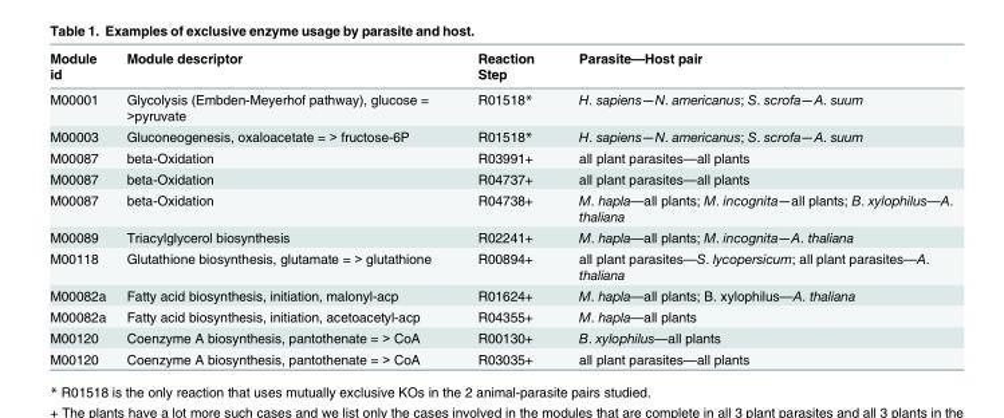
<table><thead><tr><td>Module id</td><td>Module descriptor</td><td>Reaction Step</td><td>Parasite—Host pair</td></tr></thead><tbody><tr><td>M00001</td><td>Glycolysis (Embden-Meyerhof pathway), glucose = &gt;pyruvate</td><td>R01518*</td><td>H. sapiens—N. americanus; S. scrofa—A. suum</td></tr><tr><td>M00003</td><td>Gluconeogenesis, oxaloacetate = &gt; fructose-6P</td><td>R01518*</td><td>H. sapiens—N. americanus; S. scrofa—A. suum</td></tr><tr><td>M00087</td><td>beta-Oxidation</td><td>R03991+</td><td>all plant parasites—all plants</td></tr><tr><td>M00087</td><td>beta-Oxidation</td><td>R04737+</td><td>all plant parasites—all plants</td></tr><tr><td>M00087</td><td>beta-Oxidation</td><td>R04738+</td><td>M. hapla—all plants; M. incognita—all plants; B. xylophilus—A. thaliana</td></tr><tr><td>M00089</td><td>Triacylglycerol biosynthesis</td><td>R02241+</td><td>M. hapla—all plants; M. incognita—A. thaliana</td></tr><tr><td>M00118</td><td>Glutathione biosynthesis, glutamate = &gt; glutathione</td><td>R00894+</td><td>all plant parasites—S. lycopersicum; all plant parasites—A. thaliana</td></tr><tr><td>M00082a</td><td>Fatty acid biosynthesis, initiation, malonyl-acp</td><td>R01624+</td><td>M. hapla—all plants; B. xylophilus—A. thaliana</td></tr><tr><td>M00082a</td><td>Fatty acid biosynthesis, initiation, acetoacetyl-acp</td><td>R04355+</td><td>M. hapla—all plants</td></tr><tr><td>M00120</td><td>Coenzyme A biosynthesis, pantothenate = &gt; CoA</td><td>R00130+</td><td>B. xylophilus—all plants</td></tr><tr><td>M00120</td><td>Coenzyme A biosynthesis, pantothenate = &gt; CoA</td><td>R03035+</td><td>all plant parasites—all plants</td></tr></tbody></table>